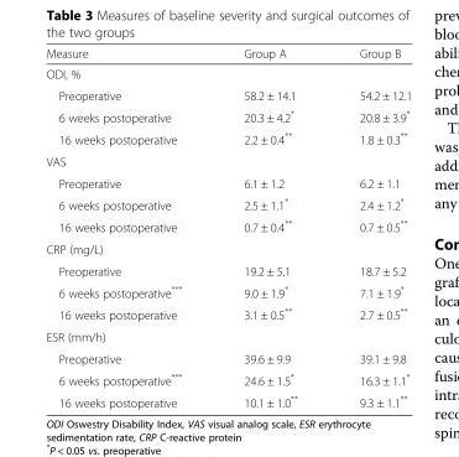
<table><thead><tr><td>Measure</td><td>Group A</td><td>Group B</td></tr></thead><tbody><tr><td colspan="3">ODI, %</td></tr><tr><td>Preoperative</td><td>58.2 ± 14.1</td><td>54.2 ± 12.1</td></tr><tr><td>6 weeks postoperative</td><td>20.3 ± 4.2*</td><td>20.8 ± 3.9*</td></tr><tr><td>16 weeks postoperative</td><td>2.2 ± 0.4**</td><td>1.8 ± 0.3**</td></tr><tr><td colspan="3">VAS</td></tr><tr><td>Preoperative</td><td>6.1 ± 1.2</td><td>6.2 ± 1.1</td></tr><tr><td>6 weeks postoperative</td><td>2.5 ± 1.1*</td><td>2.4 ± 1.2*</td></tr><tr><td>16 weeks postoperative</td><td>0.7 ± 0.4**</td><td>0.7 ± 0.5**</td></tr><tr><td colspan="3">CRP (mg/L)</td></tr><tr><td>Preoperative</td><td>19.2 ± 5.1</td><td>18.7 ± 5.2</td></tr><tr><td>6 weeks postoperative***</td><td>9.0 ± 1.9*</td><td>7.1 ± 1.9*</td></tr><tr><td>16 weeks postoperative</td><td>3.1 ± 0.5**</td><td>2.7 ± 0.5**</td></tr><tr><td colspan="3">ESR (mm/h)</td></tr><tr><td>Preoperative</td><td>39.6 ± 9.9</td><td>39.1 ± 9.8</td></tr><tr><td>6 weeks postoperative***</td><td>24.6 ± 1.5*</td><td>16.3 ± 1.1*</td></tr><tr><td>16 weeks postoperative</td><td>10.1 ± 1.0**</td><td>9.3 ± 1.1**</td></tr></tbody></table>